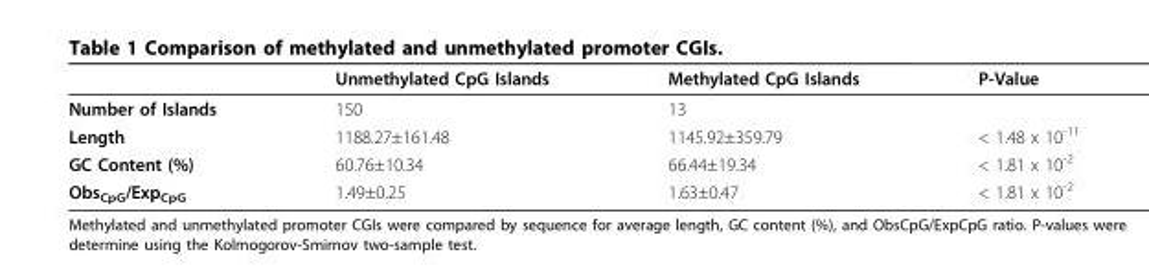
<table><thead><tr><td></td><td>Unmethylated CpG Islands</td><td>Methylated CpG Islands</td><td>P-Value</td></tr></thead><tbody><tr><td>Number of Islands</td><td>150</td><td>13</td><td></td></tr><tr><td>Length</td><td>1188.27±161.48</td><td>1145.92±359.79</td><td>&lt; 1.48 x 10<sup>-11</sup></td></tr><tr><td>GC Content (%)</td><td>60.76±10.34</td><td>66.44±19.34</td><td>&lt; 1.81 x 10<sup>-2</sup></td></tr><tr><td>Obs<sub>CpG</sub>/Exp<sub>CpG</sub></td><td>1.49±0.25</td><td>1.63±0.47</td><td>&lt; 1.81 x 10<sup>-2</sup></td></tr></tbody></table>